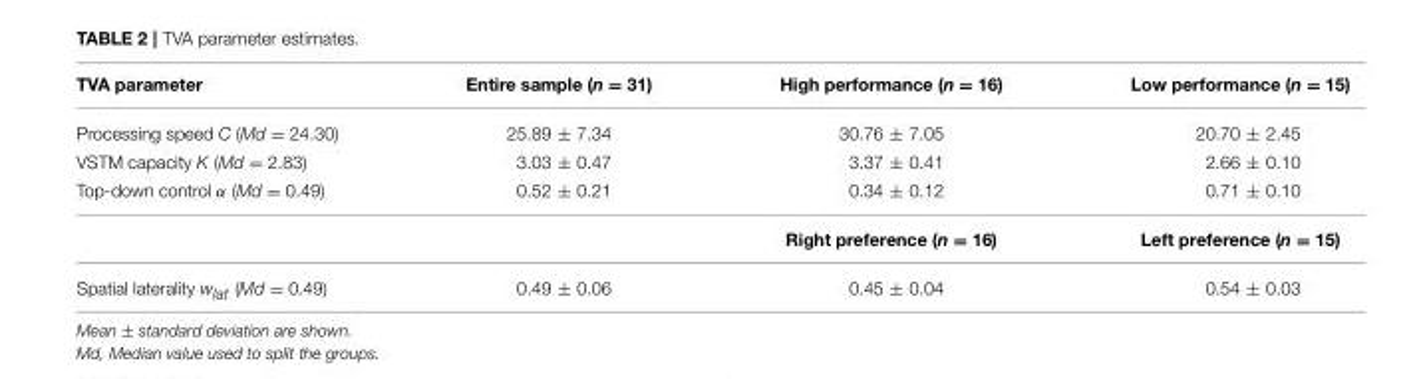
<table><thead><tr><td>TVA parameter</td><td>Entire sample (n = 31)</td><td>High performance (n = 16)</td><td>Low performance (n = 15)</td></tr></thead><tbody><tr><td>Processing speed C (Md = 24.30)</td><td>25.89 ± 7.34</td><td>30.76 ± 7.05</td><td>20.70 ± 2.45</td></tr><tr><td>VSTM capacity K (Md = 2.83)</td><td>3.03 ± 0.47</td><td>3.37 ± 0.41</td><td>2.66 ± 0.10</td></tr><tr><td rowspan="2">Top-down control α (Md = 0.49)</td><td>0.52 ± 0.21</td><td>0.34 ± 0.12</td><td>0.71 ± 0.10</td></tr><tr><td></td><td>Right preference (n = 16)</td><td>Left preference (n = 15)</td></tr><tr><td>Spatial laterality wlat (Md = 0.49)</td><td>0.49 ± 0.06</td><td>0.45 ± 0.04</td><td>0.54 ± 0.03</td></tr></tbody></table>